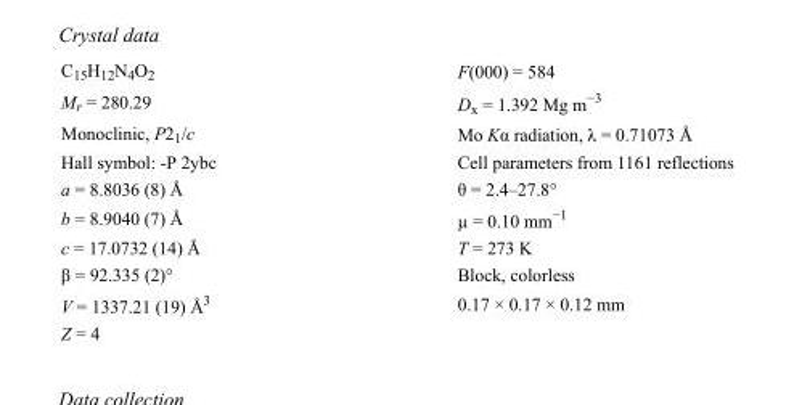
<table><tbody><tr><td>C<sub>15</sub>H<sub>12</sub>N<sub>4</sub>O<sub>2</sub></td><td>F(000) = 584</td></tr><tr><td>M<sub>r</sub> = 280.29</td><td>D<sub>x</sub> = 1.392 Mg m<sup>−3</sup></td></tr><tr><td>Monoclinic, P2<sub>1</sub>/c</td><td>Mo Kα radiation, λ = 0.71073 Å</td></tr><tr><td>Hall symbol: -P 2ybc</td><td>Cell parameters from 1161 reflections</td></tr><tr><td>a = 8.8036 (8) Å</td><td>θ = 2.4–27.8°</td></tr><tr><td>b = 8.9040 (7) Å</td><td>µ = 0.10 mm<sup>−1</sup></td></tr><tr><td>c = 17.0732 (14) Å</td><td>T = 273 K</td></tr><tr><td>β = 92.335 (2)°</td><td>Block, colorless</td></tr><tr><td>V = 1337.21 (19) Å<sup>3</sup></td><td>0.17 × 0.17 × 0.12 mm</td></tr><tr><td>Z = 4</td><td></td></tr></tbody></table>